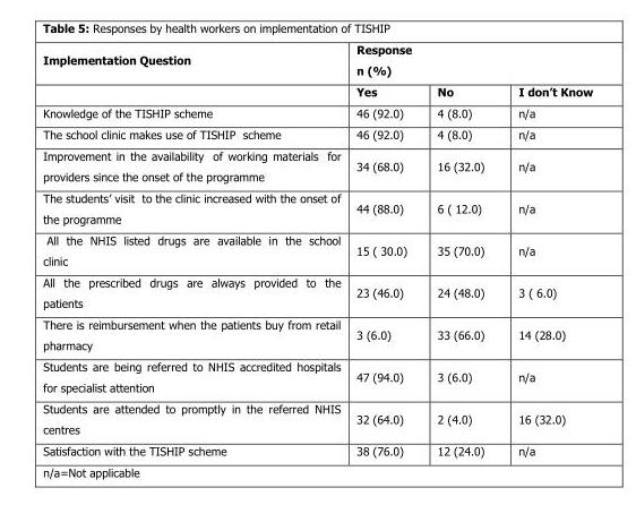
<table><thead><tr><td rowspan="2">Implementation Question</td><td colspan="3">Response n (%)</td></tr><tr><td>Yes</td><td>No</td><td>I don’t Know</td></tr></thead><tbody><tr><td>Knowledge of the TISHIP scheme</td><td>46 (92.0)</td><td>4 (8.0)</td><td>n/a</td></tr><tr><td>The school clinic makes use of TISHIP scheme</td><td>46 (92.0)</td><td>4 (8.0)</td><td>n/a</td></tr><tr><td>Improvement in the availability of working materials for providers since the onset of the programme</td><td>34 (68.0)</td><td>16 (32.0)</td><td>n/a</td></tr><tr><td>The students’ visit to the clinic increased with the onset of the programme</td><td>44 (88.0)</td><td>6 ( 12.0)</td><td>n/a</td></tr><tr><td>All the NHIS listed drugs are available in the school clinic</td><td>15 ( 30.0)</td><td>35 (70.0)</td><td>n/a</td></tr><tr><td>All the prescribed drugs are always provided to the patients</td><td>23 (46.0)</td><td>24 (48.0)</td><td>3 ( 6.0)</td></tr><tr><td>There is reimbursement when the patients buy from retail pharmacy</td><td>3 (6.0)</td><td>33 (66.0)</td><td>14 (28.0)</td></tr><tr><td>Students are being referred to NHIS accredited hospitals for specialist attention</td><td>47 (94.0)</td><td>3 (6.0)</td><td>n/a</td></tr><tr><td>Students are attended to promptly in the referred NHIS centres</td><td>32 (64.0)</td><td>2 (4.0)</td><td>16 (32.0)</td></tr><tr><td>Satisfaction with the TISHIP scheme</td><td>38 (76.0)</td><td>12 (24.0)</td><td>n/a</td></tr><tr><td colspan="4">n/a=Not applicable</td></tr></tbody></table>